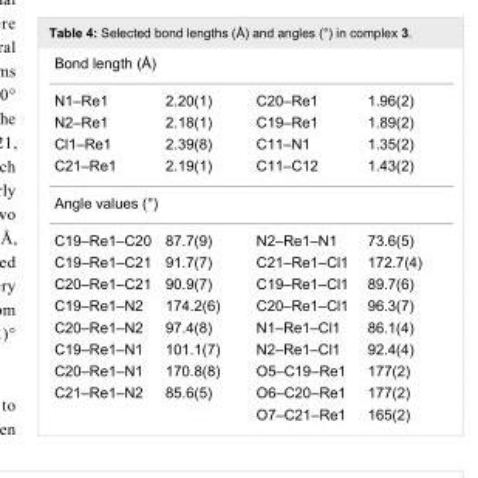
<table><tbody><tr><td colspan="4">Bond length (Å)</td></tr><tr><td>N1–Re1</td><td>2.20(1)</td><td>C20–Re1</td><td>1.96(2)</td></tr><tr><td>N2–Re1</td><td>2.18(1)</td><td>C19–Re1</td><td>1.89(2)</td></tr><tr><td>Cl1–Re1</td><td>2.39(8)</td><td>C11–N1</td><td>1.35(2)</td></tr><tr><td>C21–Re1</td><td>2.19(1)</td><td>C11–C12</td><td>1.43(2)</td></tr><tr><td colspan="4">Angle values (°)</td></tr><tr><td>C19–Re1–C20</td><td>87.7(9)</td><td>N2–Re1–N1</td><td>73.6(5)</td></tr><tr><td>C19–Re1–C21</td><td>91.7(7)</td><td>C21–Re1–Cl1</td><td>172.7(4)</td></tr><tr><td>C20–Re1–C21</td><td>90.9(7)</td><td>C19–Re1–Cl1</td><td>89.7(6)</td></tr><tr><td>C19–Re1–N2</td><td>174.2(6)</td><td>C20–Re1–Cl1</td><td>96.3(7)</td></tr><tr><td>C20–Re1–N2</td><td>97.4(8)</td><td>N1–Re1–Cl1</td><td>86.1(4)</td></tr><tr><td>C19–Re1–N1</td><td>101.1(7)</td><td>N2–Re1–Cl1</td><td>92.4(4)</td></tr><tr><td>C20–Re1–N1</td><td>170.8(8)</td><td>O5–C19–Re1</td><td>177(2)</td></tr><tr><td rowspan="2">C21–Re1–N2</td><td>85.6(5)</td><td>O6–C20–Re1</td><td>177(2)</td></tr><tr><td></td><td>O7–C21–Re1</td><td>165(2)</td></tr></tbody></table>